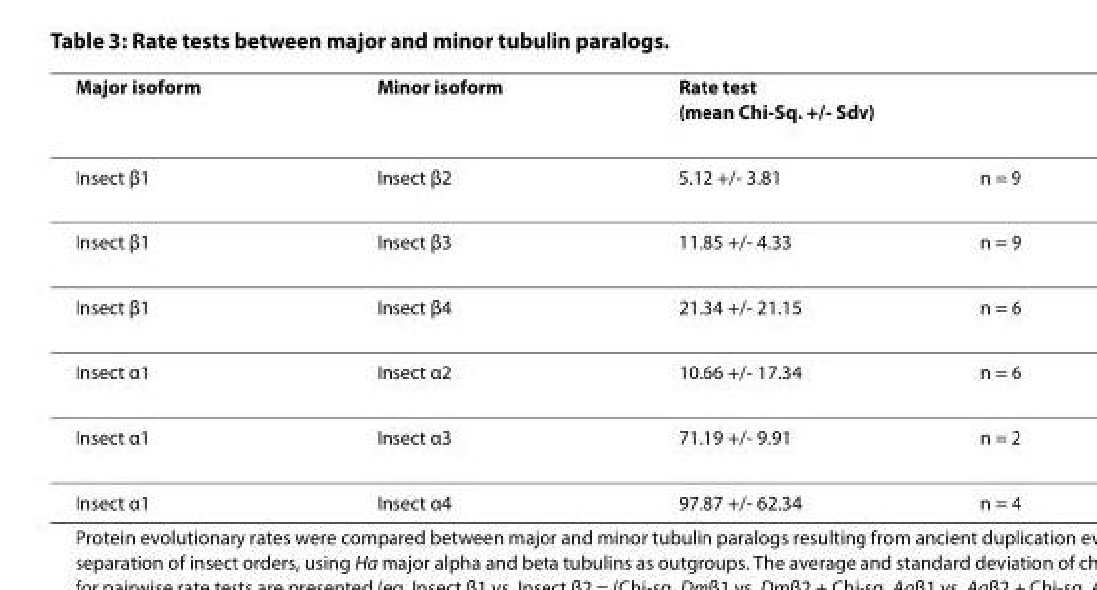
<table><thead><tr><td rowspan="2">Major isoform Insect β1</td><td rowspan="2">Minor isoform Insect β2</td><td colspan="2">Rate test (mean Chi-Sq. +/- Sdv)</td></tr><tr><td>5.12 +/- 3.81</td><td>n = 9</td></tr></thead><tbody><tr><td>Insect β1</td><td>Insect β3</td><td>11.85 +/- 4.33</td><td>n = 9</td></tr><tr><td>Insect β1</td><td>Insect β4</td><td>21.34 +/- 21.15</td><td>n = 6</td></tr><tr><td>Insect α1</td><td>Insect α2</td><td>10.66 +/- 17.34</td><td>n = 6</td></tr><tr><td>Insect α1</td><td>Insect α3</td><td>71.19 +/- 9.91</td><td>n = 2</td></tr><tr><td>Insect α1</td><td>Insect α4</td><td>97.87 +/- 62.34</td><td>n = 4</td></tr></tbody></table>